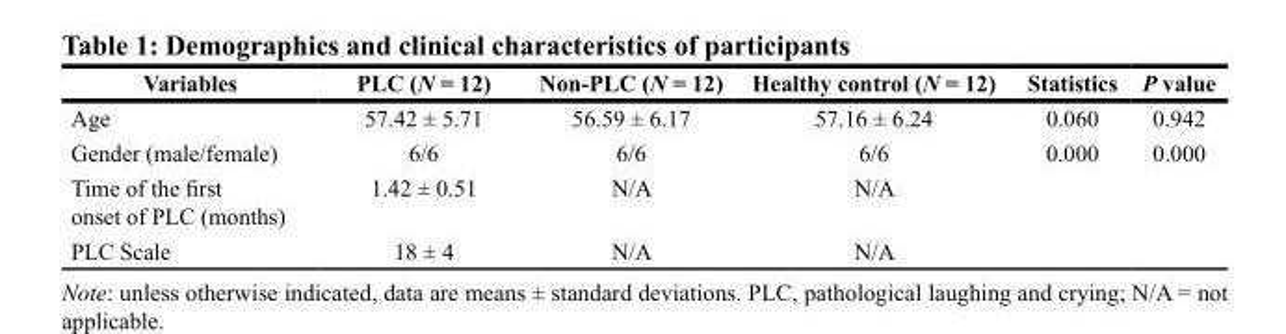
<table><thead><tr><td>Variables</td><td>PLC (N = 12)</td><td>Non-PLC (N = 12)</td><td>Healthy control (N = 12)</td><td>Statistics</td><td>P value</td></tr></thead><tbody><tr><td>Age</td><td>57.42 ± 5.71</td><td>56.59 ± 6.17</td><td>57.16 ± 6.24</td><td>0.060</td><td>0.942</td></tr><tr><td>Gender (male/female)</td><td>6/6</td><td>6/6</td><td>6/6</td><td>0.000</td><td>0.000</td></tr><tr><td>Time of the first onset of PLC (months)</td><td>1.42 ± 0.51</td><td>N/A</td><td>N/A</td><td></td><td></td></tr><tr><td>PLC Scale</td><td>18 ± 4</td><td>N/A</td><td>N/A</td><td></td><td></td></tr></tbody></table>